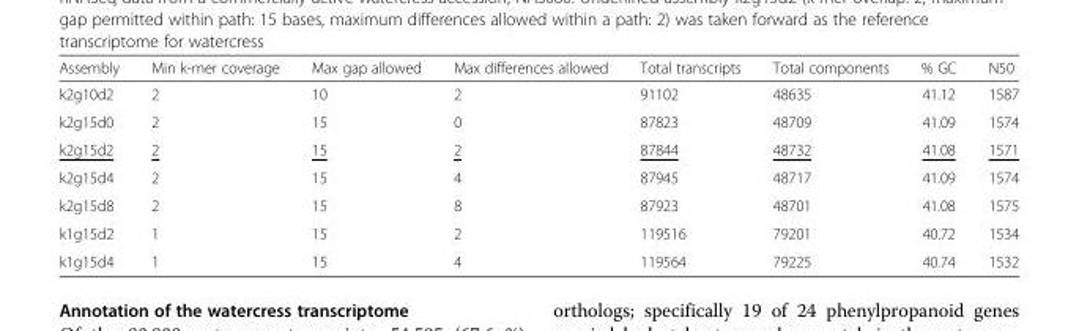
<table><thead><tr><td>Assembly</td><td>Min k-mer coverage</td><td>Max gap allowed</td><td>Max differences allowed</td><td>Total transcripts</td><td>Total components</td><td>% GC</td><td>N50</td></tr></thead><tbody><tr><td>k2g10d2</td><td>2</td><td>10</td><td>2</td><td>91102</td><td>48635</td><td>41.12</td><td>1587</td></tr><tr><td>k2g15d0</td><td>2</td><td>15</td><td>0</td><td>87823</td><td>48709</td><td>41.09</td><td>1574</td></tr><tr><td>k2g15d2</td><td>2</td><td>15</td><td>2</td><td>87844</td><td>48732</td><td>41.08</td><td>1571</td></tr><tr><td>k2g15d4</td><td>2</td><td>15</td><td>4</td><td>87945</td><td>48717</td><td>41.09</td><td>1574</td></tr><tr><td>k2g15d8</td><td>2</td><td>15</td><td>8</td><td>87923</td><td>48701</td><td>41.08</td><td>1575</td></tr><tr><td>k1g15d2</td><td>1</td><td>15</td><td>2</td><td>119516</td><td>79201</td><td>40.72</td><td>1534</td></tr><tr><td>k1g15d4</td><td>1</td><td>15</td><td>4</td><td>119564</td><td>79225</td><td>40.74</td><td>1532</td></tr></tbody></table>